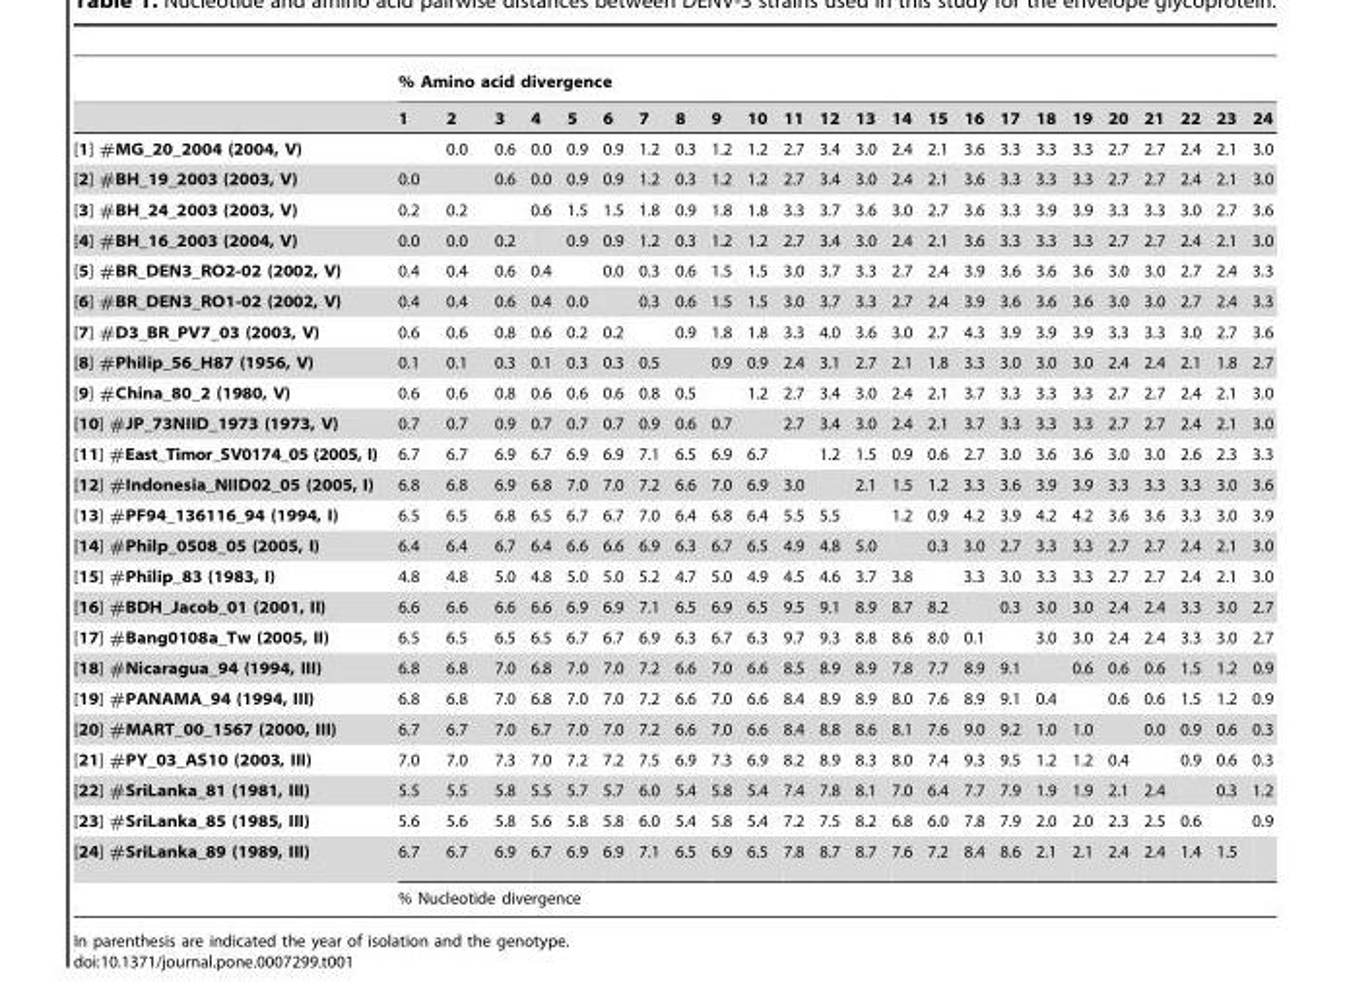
<table><thead><tr><td rowspan="2"></td><td colspan="24">% Amino acid divergence</td></tr><tr><td>1</td><td>2</td><td>3</td><td>4</td><td>5</td><td>6</td><td>7</td><td>8</td><td>9</td><td>10</td><td>11</td><td>12</td><td>13</td><td>14</td><td>15</td><td>16</td><td>17</td><td>18</td><td>19</td><td>20</td><td>21</td><td>22</td><td>23</td><td>24</td></tr></thead><tbody><tr><td>[1] #MG_20_2004 (2004, V)</td><td></td><td>0.0</td><td>0.6</td><td>0.0</td><td>0.9</td><td>0.9</td><td>1.2</td><td>0.3</td><td>1.2</td><td>1.2</td><td>2.7</td><td>3.4</td><td>3.0</td><td>2.4</td><td>2.1</td><td>3.6</td><td>3.3</td><td>3.3</td><td>3.3</td><td>2.7</td><td>2.7</td><td>2.4</td><td>2.1</td><td>3.0</td></tr><tr><td>[2] #BH_19_2003 (2003, V)</td><td>0.0</td><td></td><td>0.6</td><td>0.0</td><td>0.9</td><td>0.9</td><td>1.2</td><td>0.3</td><td>1.2</td><td>1.2</td><td>2.7</td><td>3.4</td><td>3.0</td><td>2.4</td><td>2.1</td><td>3.6</td><td>3.3</td><td>3.3</td><td>3.3</td><td>2.7</td><td>2.7</td><td>2.4</td><td>2.1</td><td>3.0</td></tr><tr><td>[3] #BH_24_2003 (2003, V)</td><td>0.2</td><td>0.2</td><td></td><td>0.6</td><td>1.5</td><td>1.5</td><td>1.8</td><td>0.9</td><td>1.8</td><td>1.8</td><td>3.3</td><td>3.7</td><td>3.6</td><td>3.0</td><td>2.7</td><td>3.6</td><td>3.3</td><td>3.9</td><td>3.9</td><td>3.3</td><td>3.3</td><td>3.0</td><td>2.7</td><td>3.6</td></tr><tr><td>[4] #BH_16_2003 (2004, V)</td><td>0.0</td><td>0.0</td><td>0.2</td><td></td><td>0.9</td><td>0.9</td><td>1.2</td><td>0.3</td><td>1.2</td><td>1.2</td><td>2.7</td><td>3.4</td><td>3.0</td><td>2.4</td><td>2.1</td><td>3.6</td><td>3.3</td><td>3.3</td><td>3.3</td><td>2.7</td><td>2.7</td><td>2.4</td><td>2.1</td><td>3.0</td></tr><tr><td>[5] #BR_DEN3_RO2-02 (2002, V)</td><td>0.4</td><td>0.4</td><td>0.6</td><td>0.4</td><td></td><td>0.0</td><td>0.3</td><td>0.6</td><td>1.5</td><td>1.5</td><td>3.0</td><td>3.7</td><td>3.3</td><td>2.7</td><td>2.4</td><td>3.9</td><td>3.6</td><td>3.6</td><td>3.6</td><td>3.0</td><td>3.0</td><td>2.7</td><td>2.4</td><td>3.3</td></tr><tr><td>[6] #BR_DEN3_RO1-02 (2002, V)</td><td>0.4</td><td>0.4</td><td>0.6</td><td>0.4</td><td>0.0</td><td></td><td>0.3</td><td>0.6</td><td>1.5</td><td>1.5</td><td>3.0</td><td>3.7</td><td>3.3</td><td>2.7</td><td>2.4</td><td>3.9</td><td>3.6</td><td>3.6</td><td>3.6</td><td>3.0</td><td>3.0</td><td>2.7</td><td>2.4</td><td>3.3</td></tr><tr><td>[7] #D3_BR_PV7_03 (2003, V)</td><td>0.6</td><td>0.6</td><td>0.8</td><td>0.6</td><td>0.2</td><td>0.2</td><td></td><td>0.9</td><td>1.8</td><td>1.8</td><td>3.3</td><td>4.0</td><td>3.6</td><td>3.0</td><td>2.7</td><td>4.3</td><td>3.9</td><td>3.9</td><td>3.9</td><td>3.3</td><td>3.3</td><td>3.0</td><td>2.7</td><td>3.6</td></tr><tr><td>[8] #Philip_56_H87 (1956, V)</td><td>0.1</td><td>0.1</td><td>0.3</td><td>0.1</td><td>0.3</td><td>0.3</td><td>0.5</td><td></td><td>0.9</td><td>0.9</td><td>2.4</td><td>3.1</td><td>2.7</td><td>2.1</td><td>1.8</td><td>3.3</td><td>3.0</td><td>3.0</td><td>3.0</td><td>2.4</td><td>2.4</td><td>2.1</td><td>1.8</td><td>2.7</td></tr><tr><td>[9] #China_80_2 (1980, V)</td><td>0.6</td><td>0.6</td><td>0.8</td><td>0.6</td><td>0.6</td><td>0.6</td><td>0.8</td><td>0.5</td><td></td><td>1.2</td><td>2.7</td><td>3.4</td><td>3.0</td><td>2.4</td><td>2.1</td><td>3.7</td><td>3.3</td><td>3.3</td><td>3.3</td><td>2.7</td><td>2.7</td><td>2.4</td><td>2.1</td><td>3.0</td></tr><tr><td>[10] #JP_73NIID_1973 (1973, V)</td><td>0.7</td><td>0.7</td><td>0.9</td><td>0.7</td><td>0.7</td><td>0.7</td><td>0.9</td><td>0.6</td><td>0.7</td><td></td><td>2.7</td><td>3.4</td><td>3.0</td><td>2.4</td><td>2.1</td><td>3.7</td><td>3.3</td><td>3.3</td><td>3.3</td><td>2.7</td><td>2.7</td><td>2.4</td><td>2.1</td><td>3.0</td></tr><tr><td>[11] #East_Timor_SV0174_05 (2005, I)</td><td>6.7</td><td>6.7</td><td>6.9</td><td>6.7</td><td>6.9</td><td>6.9</td><td>7.1</td><td>6.5</td><td>6.9</td><td>6.7</td><td></td><td>1.2</td><td>1.5</td><td>0.9</td><td>0.6</td><td>2.7</td><td>3.0</td><td>3.6</td><td>3.6</td><td>3.0</td><td>3.0</td><td>2.6</td><td>2.3</td><td>3.3</td></tr><tr><td>[12] #Indonesia_NIID02_05 (2005, I)</td><td>6.8</td><td>6.8</td><td>6.9</td><td>6.8</td><td>7.0</td><td>7.0</td><td>7.2</td><td>6.6</td><td>7.0</td><td>6.9</td><td>3.0</td><td></td><td>2.1</td><td>1.5</td><td>1.2</td><td>3.3</td><td>3.6</td><td>3.9</td><td>3.9</td><td>3.3</td><td>3.3</td><td>3.3</td><td>3.0</td><td>3.6</td></tr><tr><td>[13] #PF94_136116_94 (1994, I)</td><td>6.5</td><td>6.5</td><td>6.8</td><td>6.5</td><td>6.7</td><td>6.7</td><td>7.0</td><td>6.4</td><td>6.8</td><td>6.4</td><td>5.5</td><td>5.5</td><td></td><td>1.2</td><td>0.9</td><td>4.2</td><td>3.9</td><td>4.2</td><td>4.2</td><td>3.6</td><td>3.6</td><td>3.3</td><td>3.0</td><td>3.9</td></tr><tr><td>[14] #Philp_0508_05 (2005, I)</td><td>6.4</td><td>6.4</td><td>6.7</td><td>6.4</td><td>6.6</td><td>6.6</td><td>6.9</td><td>6.3</td><td>6.7</td><td>6.5</td><td>4.9</td><td>4.8</td><td>5.0</td><td></td><td>0.3</td><td>3.0</td><td>2.7</td><td>3.3</td><td>3.3</td><td>2.7</td><td>2.7</td><td>2.4</td><td>2.1</td><td>3.0</td></tr><tr><td>[15] #Philip_83 (1983, I)</td><td>4.8</td><td>4.8</td><td>5.0</td><td>4.8</td><td>5.0</td><td>5.0</td><td>5.2</td><td>4.7</td><td>5.0</td><td>4.9</td><td>4.5</td><td>4.6</td><td>3.7</td><td>3.8</td><td></td><td>3.3</td><td>3.0</td><td>3.3</td><td>3.3</td><td>2.7</td><td>2.7</td><td>2.4</td><td>2.1</td><td>3.0</td></tr><tr><td>[16] #BDH_Jacob_01 (2001, II)</td><td>6.6</td><td>6.6</td><td>6.6</td><td>6.6</td><td>6.9</td><td>6.9</td><td>7.1</td><td>6.5</td><td>6.9</td><td>6.5</td><td>9.5</td><td>9.1</td><td>8.9</td><td>8.7</td><td>8.2</td><td></td><td>0.3</td><td>3.0</td><td>3.0</td><td>2.4</td><td>2.4</td><td>3.3</td><td>3.0</td><td>2.7</td></tr><tr><td>[17] #Bang0108a_Tw (2005, II)</td><td>6.5</td><td>6.5</td><td>6.5</td><td>6.5</td><td>6.7</td><td>6.7</td><td>6.9</td><td>6.3</td><td>6.7</td><td>6.3</td><td>9.7</td><td>9.3</td><td>8.8</td><td>8.6</td><td>8.0</td><td>0.1</td><td></td><td>3.0</td><td>3.0</td><td>2.4</td><td>2.4</td><td>3.3</td><td>3.0</td><td>2.7</td></tr><tr><td>[18] #Nicaragua_94 (1994, III)</td><td>6.8</td><td>6.8</td><td>7.0</td><td>6.8</td><td>7.0</td><td>7.0</td><td>7.2</td><td>6.6</td><td>7.0</td><td>6.6</td><td>8.5</td><td>8.9</td><td>8.9</td><td>7.8</td><td>7.7</td><td>8.9</td><td>9.1</td><td></td><td>0.6</td><td>0.6</td><td>0.6</td><td>1.5</td><td>1.2</td><td>0.9</td></tr><tr><td>[19] #PANAMA_94 (1994, III)</td><td>6.8</td><td>6.8</td><td>7.0</td><td>6.8</td><td>7.0</td><td>7.0</td><td>7.2</td><td>6.6</td><td>7.0</td><td>6.6</td><td>8.4</td><td>8.9</td><td>8.9</td><td>8.0</td><td>7.6</td><td>8.9</td><td>9.1</td><td>0.4</td><td></td><td>0.6</td><td>0.6</td><td>1.5</td><td>1.2</td><td>0.9</td></tr><tr><td>[20] #MART_00_1567 (2000, III)</td><td>6.7</td><td>6.7</td><td>7.0</td><td>6.7</td><td>7.0</td><td>7.0</td><td>7.2</td><td>6.6</td><td>7.0</td><td>6.6</td><td>8.4</td><td>8.8</td><td>8.6</td><td>8.1</td><td>7.6</td><td>9.0</td><td>9.2</td><td>1.0</td><td>1.0</td><td></td><td>0.0</td><td>0.9</td><td>0.6</td><td>0.3</td></tr><tr><td>[21] #PY_03_AS10 (2003, III)</td><td>7.0</td><td>7.0</td><td>7.3</td><td>7.0</td><td>7.2</td><td>7.2</td><td>7.5</td><td>6.9</td><td>7.3</td><td>6.9</td><td>8.2</td><td>8.9</td><td>8.3</td><td>8.0</td><td>7.4</td><td>9.3</td><td>9.5</td><td>1.2</td><td>1.2</td><td>0.4</td><td></td><td>0.9</td><td>0.6</td><td>0.3</td></tr><tr><td>[22] #SriLanka_81 (1981, III)</td><td>5.5</td><td>5.5</td><td>5.8</td><td>5.5</td><td>5.7</td><td>5.7</td><td>6.0</td><td>5.4</td><td>5.8</td><td>5.4</td><td>7.4</td><td>7.8</td><td>8.1</td><td>7.0</td><td>6.4</td><td>7.7</td><td>7.9</td><td>1.9</td><td>1.9</td><td>2.1</td><td>2.4</td><td></td><td>0.3</td><td>1.2</td></tr><tr><td>[23] #SriLanka_85 (1985, III)</td><td>5.6</td><td>5.6</td><td>5.8</td><td>5.6</td><td>5.8</td><td>5.8</td><td>6.0</td><td>5.4</td><td>5.8</td><td>5.4</td><td>7.2</td><td>7.5</td><td>8.2</td><td>6.8</td><td>6.0</td><td>7.8</td><td>7.9</td><td>2.0</td><td>2.0</td><td>2.3</td><td>2.5</td><td>0.6</td><td></td><td>0.9</td></tr><tr><td rowspan="2">[24] #SriLanka_89 (1989, III)</td><td>6.7</td><td>6.7</td><td>6.9</td><td>6.7</td><td>6.9</td><td>6.9</td><td>7.1</td><td>6.5</td><td>6.9</td><td>6.5</td><td>7.8</td><td>8.7</td><td>8.7</td><td>7.6</td><td>7.2</td><td>8.4</td><td>8.6</td><td>2.1</td><td>2.1</td><td>2.4</td><td>2.4</td><td>1.4</td><td>1.5</td><td></td></tr><tr><td colspan="24">% Nucleotide divergence</td></tr></tbody></table>